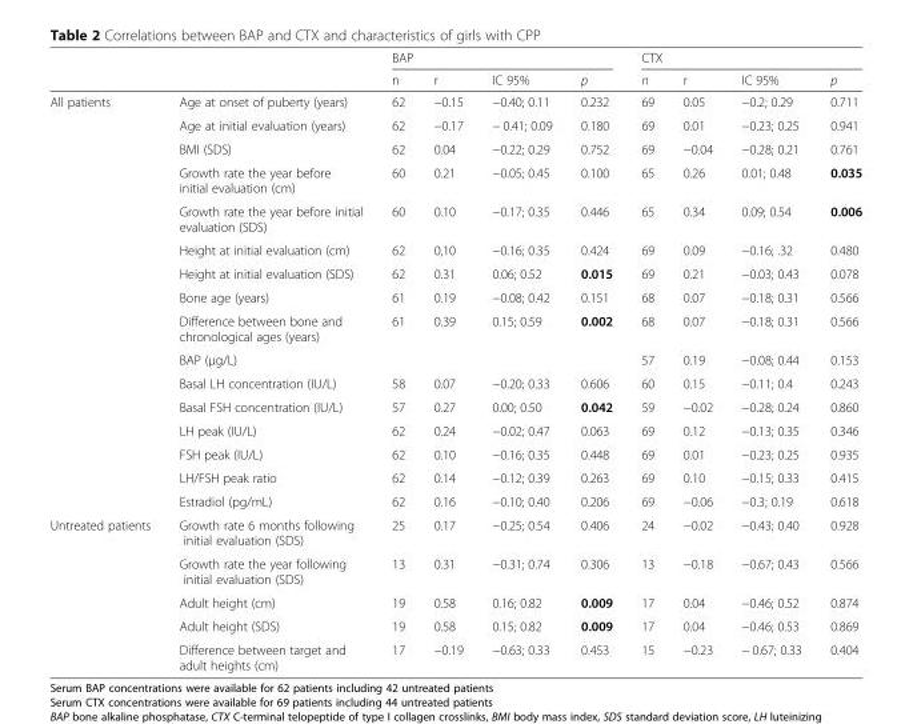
<table><thead><tr><td rowspan="2"></td><td rowspan="2"></td><td colspan="4">BAP</td><td colspan="4">CTX</td></tr><tr><td>n</td><td>r</td><td>IC 95%</td><td>p</td><td>n</td><td>r</td><td>IC 95%</td><td>p</td></tr></thead><tbody><tr><td rowspan="16">All patients</td><td>Age at onset of puberty (years)</td><td>62</td><td>−0.15</td><td>−0.40; 0.11</td><td>0.232</td><td>69</td><td>0.05</td><td>−0.2; 0.29</td><td>0.711</td></tr><tr><td>Age at initial evaluation (years)</td><td>62</td><td>−0.17</td><td>− 0.41; 0.09</td><td>0.180</td><td>69</td><td>0.01</td><td>−0.23; 0.25</td><td>0.941</td></tr><tr><td>BMI (SDS)</td><td>62</td><td>0.04</td><td>−0.22; 0.29</td><td>0.752</td><td>69</td><td>−0.04</td><td>−0.28; 0.21</td><td>0.761</td></tr><tr><td>Growth rate the year before initial evaluation (cm)</td><td>60</td><td>0.21</td><td>−0.05; 0.45</td><td>0.100</td><td>65</td><td>0.26</td><td>0.01; 0.48</td><td>0.035</td></tr><tr><td>Growth rate the year before initial evaluation (SDS)</td><td>60</td><td>0.10</td><td>−0.17; 0.35</td><td>0.446</td><td>65</td><td>0.34</td><td>0.09; 0.54</td><td>0.006</td></tr><tr><td>Height at initial evaluation (cm)</td><td>62</td><td>0,10</td><td>−0.16; 0.35</td><td>0.424</td><td>69</td><td>0.09</td><td>−0.16; .32</td><td>0.480</td></tr><tr><td>Height at initial evaluation (SDS)</td><td>62</td><td>0.31</td><td>0.06; 0.52</td><td>0.015</td><td>69</td><td>0.21</td><td>−0.03; 0.43</td><td>0.078</td></tr><tr><td>Bone age (years)</td><td>61</td><td>0.19</td><td>−0.08; 0.42</td><td>0.151</td><td>68</td><td>0.07</td><td>−0.18; 0.31</td><td>0.566</td></tr><tr><td>Difference between bone and chronological ages (years)</td><td>61</td><td>0.39</td><td>0.15; 0.59</td><td>0.002</td><td>68</td><td>0.07</td><td>−0.18; 0.31</td><td>0.566</td></tr><tr><td>BAP (μg/L)</td><td colspan="4"></td><td>57</td><td>0.19</td><td>−0.08; 0.44</td><td>0.153</td></tr><tr><td>Basal LH concentration (IU/L)</td><td>58</td><td>0.07</td><td>−0.20; 0.33</td><td>0.606</td><td>60</td><td>0.15</td><td>−0.11; 0.4</td><td>0.243</td></tr><tr><td>Basal FSH concentration (IU/L)</td><td>57</td><td>0.27</td><td>0.00; 0.50</td><td>0.042</td><td>59</td><td>−0.02</td><td>−0.28; 0.24</td><td>0.860</td></tr><tr><td>LH peak (IU/L)</td><td>62</td><td>0.24</td><td>−0.02; 0.47</td><td>0.063</td><td>69</td><td>0.12</td><td>−0.13; 0.35</td><td>0.346</td></tr><tr><td>FSH peak (IU/L)</td><td>62</td><td>0.10</td><td>−0.16; 0.35</td><td>0.448</td><td>69</td><td>0.01</td><td>−0.23; 0.25</td><td>0.935</td></tr><tr><td>LH/FSH peak ratio</td><td>62</td><td>0.14</td><td>−0.12; 0.39</td><td>0.263</td><td>69</td><td>0.10</td><td>−0.15; 0.33</td><td>0.415</td></tr><tr><td>Estradiol (pg/mL)</td><td>62</td><td>0.16</td><td>−0.10; 0.40</td><td>0.206</td><td>69</td><td>−0.06</td><td>−0.3; 0.19</td><td>0.618</td></tr><tr><td rowspan="5">Untreated patients</td><td>Growth rate 6 months following initial evaluation (SDS)</td><td>25</td><td>0.17</td><td>−0.25; 0.54</td><td>0.406</td><td>24</td><td>−0.02</td><td>−0.43; 0.40</td><td>0.928</td></tr><tr><td>Growth rate the year following initial evaluation (SDS)</td><td>13</td><td>0.31</td><td>−0.31; 0.74</td><td>0.306</td><td>13</td><td>−0.18</td><td>−0.67; 0.43</td><td>0.566</td></tr><tr><td>Adult height (cm)</td><td>19</td><td>0.58</td><td>0.16; 0.82</td><td>0.009</td><td>17</td><td>0.04</td><td>−0.46; 0.52</td><td>0.874</td></tr><tr><td>Adult height (SDS)</td><td>19</td><td>0.58</td><td>0.15; 0.82</td><td>0.009</td><td>17</td><td>0.04</td><td>−0.46; 0.53</td><td>0.869</td></tr><tr><td>Difference between target and adult heights (cm)</td><td>17</td><td>−0.19</td><td>−0.63; 0.33</td><td>0.453</td><td>15</td><td>−0.23</td><td>− 0.67; 0.33</td><td>0.404</td></tr></tbody></table>